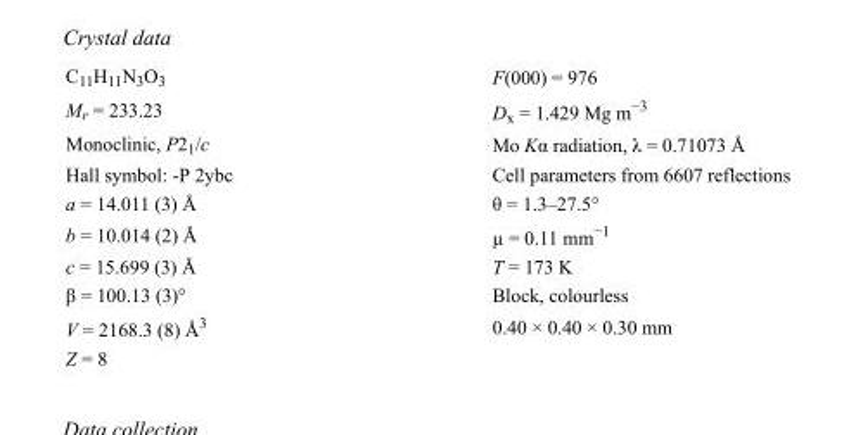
<table><tbody><tr><td>C<sub>11</sub>H<sub>11</sub>N<sub>3</sub>O<sub>3</sub></td><td>F(000) = 976</td></tr><tr><td>M<sub>r</sub> = 233.23</td><td>D<sub>x</sub> = 1.429 Mg m<sup>−3</sup></td></tr><tr><td>Monoclinic, P2<sub>1</sub>/c</td><td>Mo Kα radiation, λ = 0.71073 Å</td></tr><tr><td>Hall symbol: -P 2ybc</td><td>Cell parameters from 6607 reflections</td></tr><tr><td>a = 14.011 (3) Å</td><td>θ = 1.3–27.5°</td></tr><tr><td>b = 10.014 (2) Å</td><td>µ = 0.11 mm<sup>−1</sup></td></tr><tr><td>c = 15.699 (3) Å</td><td>T = 173 K</td></tr><tr><td>β = 100.13 (3)°</td><td>Block, colourless</td></tr><tr><td>V = 2168.3 (8) Å<sup>3</sup></td><td>0.40 × 0.40 × 0.30 mm</td></tr><tr><td>Z = 8</td><td></td></tr></tbody></table>